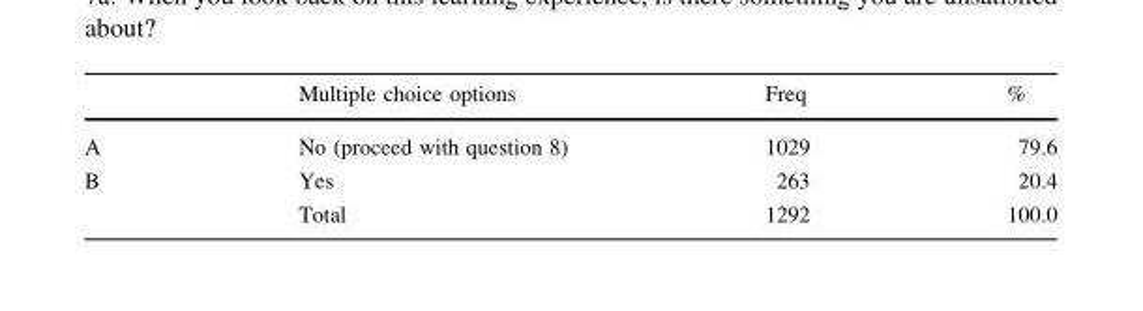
<table><thead><tr><td></td><td>Multiple choice options</td><td>Freq</td><td>%</td></tr></thead><tbody><tr><td>A</td><td>No (proceed with question 8)</td><td>1029</td><td>79.6</td></tr><tr><td rowspan="2">B</td><td>Yes</td><td>263</td><td>20.4</td></tr><tr><td>Total</td><td>1292</td><td>100.0</td></tr></tbody></table>